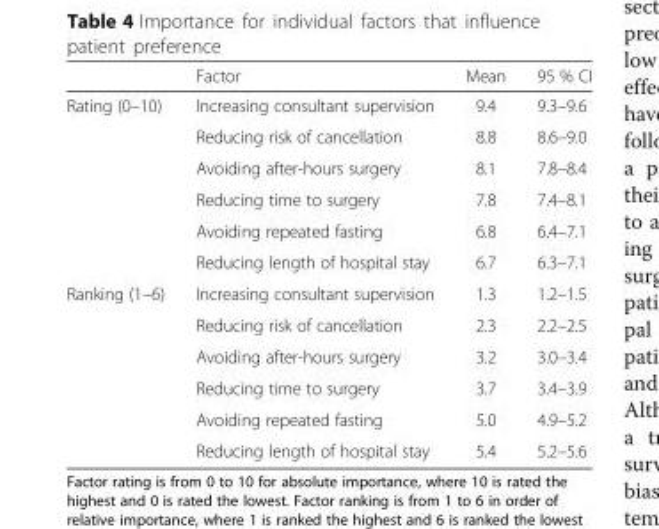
<table><thead><tr><td></td><td>Factor</td><td>Mean</td><td>95 % CI</td></tr></thead><tbody><tr><td rowspan="6">Rating (0–10)</td><td>Increasing consultant supervision</td><td>9.4</td><td>9.3–9.6</td></tr><tr><td>Reducing risk of cancellation</td><td>8.8</td><td>8.6–9.0</td></tr><tr><td>Avoiding after-hours surgery</td><td>8.1</td><td>7.8–8.4</td></tr><tr><td>Reducing time to surgery</td><td>7.8</td><td>7.4–8.1</td></tr><tr><td>Avoiding repeated fasting</td><td>6.8</td><td>6.4–7.1</td></tr><tr><td>Reducing length of hospital stay</td><td>6.7</td><td>6.3–7.1</td></tr><tr><td rowspan="6">Ranking (1–6)</td><td>Increasing consultant supervision</td><td>1.3</td><td>1.2–1.5</td></tr><tr><td>Reducing risk of cancellation</td><td>2.3</td><td>2.2–2.5</td></tr><tr><td>Avoiding after-hours surgery</td><td>3.2</td><td>3.0–3.4</td></tr><tr><td>Reducing time to surgery</td><td>3.7</td><td>3.4–3.9</td></tr><tr><td>Avoiding repeated fasting</td><td>5.0</td><td>4.9–5.2</td></tr><tr><td>Reducing length of hospital stay</td><td>5.4</td><td>5.2–5.6</td></tr></tbody></table>